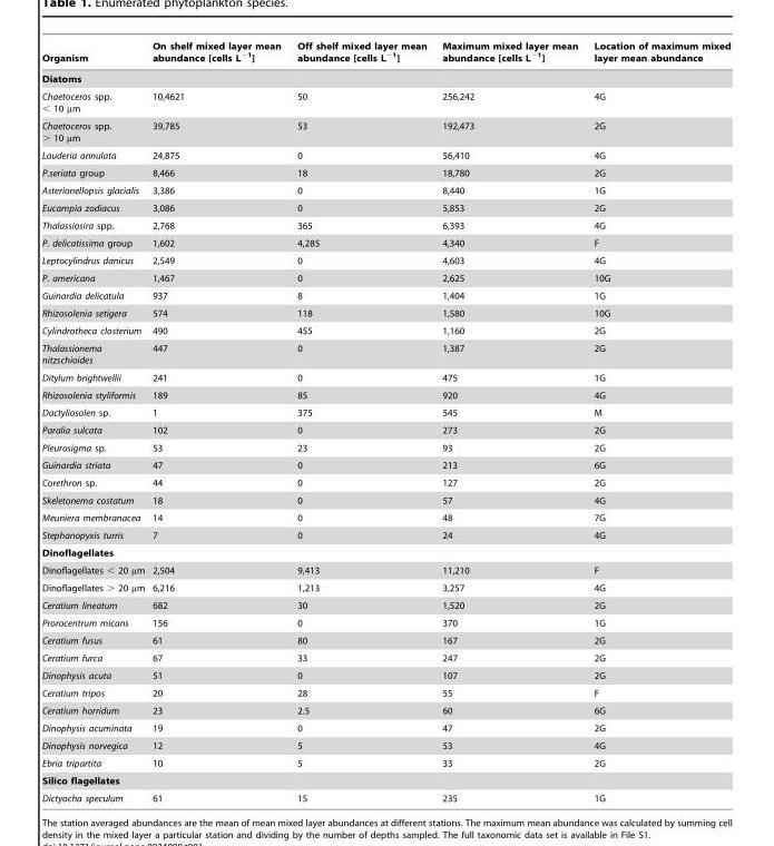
<table><thead><tr><td>Organism</td><td>On shelf mixed layer mean abundance [cells L<sup>−1</sup>]</td><td>Off shelf mixed layer mean abundance [cells L<sup>−1</sup>]</td><td>Maximum mixed layer mean abundance [cells L<sup>−1</sup>]</td><td>Location of maximum mixed layer mean abundance</td></tr></thead><tbody><tr><td colspan="5">Diatoms</td></tr><tr><td>Chaetoceros spp. &lt; 10 µm</td><td>10,4621</td><td>50</td><td>256,242</td><td>4G</td></tr><tr><td>Chaetoceros spp. &gt; 10 µm</td><td>39,785</td><td>53</td><td>192,473</td><td>2G</td></tr><tr><td>Lauderia annulata</td><td>24,875</td><td>0</td><td>56,410</td><td>4G</td></tr><tr><td>P.seriata group</td><td>8,466</td><td>18</td><td>18,780</td><td>2G</td></tr><tr><td>Asterionellopsis glacialis</td><td>3,386</td><td>0</td><td>8,440</td><td>1G</td></tr><tr><td>Eucampia zodiacus</td><td>3,086</td><td>0</td><td>5,853</td><td>2G</td></tr><tr><td>Thalassiosira spp.</td><td>2,768</td><td>365</td><td>6,393</td><td>4G</td></tr><tr><td>P. delicatissima group</td><td>1,602</td><td>4,285</td><td>4,340</td><td>F</td></tr><tr><td>Leptocylindrus danicus</td><td>2,549</td><td>0</td><td>4,603</td><td>4G</td></tr><tr><td>P. americana</td><td>1,467</td><td>0</td><td>2,625</td><td>10G</td></tr><tr><td>Guinardia delicatula</td><td>937</td><td>8</td><td>1,404</td><td>1G</td></tr><tr><td>Rhizosolenia setigera</td><td>574</td><td>118</td><td>1,580</td><td>10G</td></tr><tr><td>Cylindrotheca closterium</td><td>490</td><td>455</td><td>1,160</td><td>2G</td></tr><tr><td>Thalassionema nitzschioides</td><td>447</td><td>0</td><td>1,387</td><td>2G</td></tr><tr><td>Ditylum brightwellii</td><td>241</td><td>0</td><td>475</td><td>1G</td></tr><tr><td>Rhizosolenia styliformis</td><td>189</td><td>85</td><td>920</td><td>4G</td></tr><tr><td>Dactyliosolen sp.</td><td>1</td><td>375</td><td>545</td><td>M</td></tr><tr><td>Paralia sulcata</td><td>102</td><td>0</td><td>273</td><td>2G</td></tr><tr><td>Pleurosigma sp.</td><td>53</td><td>23</td><td>93</td><td>2G</td></tr><tr><td>Guinardia striata</td><td>47</td><td>0</td><td>213</td><td>6G</td></tr><tr><td>Corethron sp.</td><td>44</td><td>0</td><td>127</td><td>2G</td></tr><tr><td>Skeletonema costatum</td><td>18</td><td>0</td><td>57</td><td>4G</td></tr><tr><td>Meuniera membranacea</td><td>14</td><td>0</td><td>48</td><td>7G</td></tr><tr><td>Stephanopyxis turris</td><td>7</td><td>0</td><td>24</td><td>4G</td></tr><tr><td colspan="5">Dinoflagellates</td></tr><tr><td>Dinoflagellates &lt; 20 µm</td><td>2,504</td><td>9,413</td><td>11,210</td><td>F</td></tr><tr><td>Dinoflagellates &gt; 20 µm</td><td>6,216</td><td>1,213</td><td>3,257</td><td>4G</td></tr><tr><td>Ceratium lineatum</td><td>682</td><td>30</td><td>1,520</td><td>2G</td></tr><tr><td>Prorocentrum micans</td><td>156</td><td>0</td><td>370</td><td>1G</td></tr><tr><td>Ceratium fusus</td><td>61</td><td>80</td><td>167</td><td>2G</td></tr><tr><td>Ceratium furca</td><td>67</td><td>33</td><td>247</td><td>2G</td></tr><tr><td>Dinophysis acuta</td><td>51</td><td>0</td><td>107</td><td>2G</td></tr><tr><td>Ceratium tripos</td><td>20</td><td>28</td><td>55</td><td>F</td></tr><tr><td>Ceratium horridum</td><td>23</td><td>2.5</td><td>60</td><td>6G</td></tr><tr><td>Dinophysis acuminata</td><td>19</td><td>0</td><td>47</td><td>2G</td></tr><tr><td>Dinophysis norvegica</td><td>12</td><td>5</td><td>53</td><td>4G</td></tr><tr><td>Ebria tripartita</td><td>10</td><td>5</td><td>33</td><td>2G</td></tr><tr><td colspan="5">Silico flagellates</td></tr><tr><td>Dictyocha speculum</td><td>61</td><td>15</td><td>235</td><td>1G</td></tr></tbody></table>